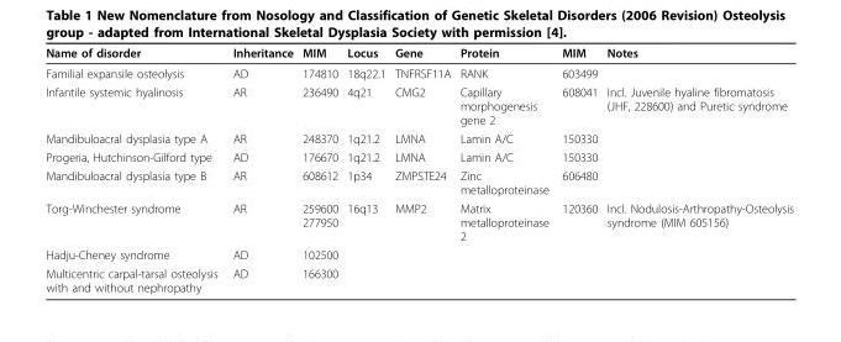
<table><thead><tr><td>Name of disorder</td><td>Inheritance</td><td>MIM</td><td>Locus</td><td>Gene</td><td>Protein</td><td>MIM</td><td>Notes</td></tr></thead><tbody><tr><td>Familial expansile osteolysis</td><td>AD</td><td>174810</td><td>18q22.1</td><td>TNFRSF11A</td><td>RANK</td><td>603499</td><td></td></tr><tr><td>Infantile systemic hyalinosis</td><td>AR</td><td>236490</td><td>4q21</td><td>CMG2</td><td>Capillary morphogenesis gene 2</td><td>608041</td><td>Incl. Juvenile hyaline fibromatosis (JHF, 228600) and Puretic syndrome</td></tr><tr><td>Mandibuloacral dysplasia type A</td><td>AR</td><td>248370</td><td>1q21.2</td><td>LMNA</td><td>Lamin A/C</td><td>150330</td><td></td></tr><tr><td>Progeria, Hutchinson-Gilford type</td><td>AD</td><td>176670</td><td>1q21.2</td><td>LMNA</td><td>Lamin A/C</td><td>150330</td><td></td></tr><tr><td>Mandibuloacral dysplasia type B</td><td>AR</td><td>608612</td><td>1p34</td><td>ZMPSTE24</td><td>Zinc metalloproteinase</td><td>606480</td><td></td></tr><tr><td>Torg-Winchester syndrome</td><td>AR</td><td>259600 277950</td><td>16q13</td><td>MMP2</td><td>Matrix metalloproteinase 2</td><td>120360</td><td>Incl. Nodulosis-Arthropathy-Osteolysis syndrome (MIM 605156)</td></tr><tr><td>Hadju-Cheney syndrome</td><td>AD</td><td>102500</td><td></td><td></td><td></td><td></td><td></td></tr><tr><td>Multicentric carpal-tarsal osteolysis with and without nephropathy</td><td>AD</td><td>166300</td><td></td><td></td><td></td><td></td><td></td></tr></tbody></table>